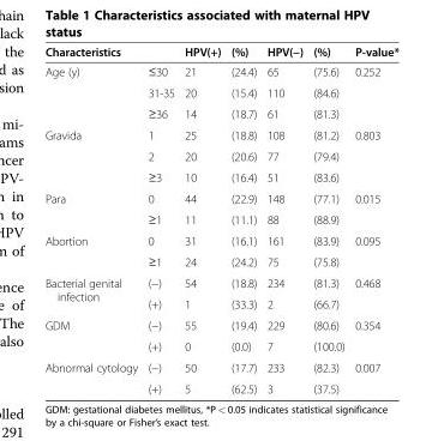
<table><thead><tr><td>Characteristics</td><td></td><td>HPV(+)</td><td>(%)</td><td>HPV(−)</td><td>(%)</td><td>P-value*</td></tr></thead><tbody><tr><td rowspan="3">Age (y)</td><td>≤30</td><td>21</td><td>(24.4)</td><td>65</td><td>(75.6)</td><td>0.252</td></tr><tr><td>31-35</td><td>20</td><td>(15.4)</td><td>110</td><td>(84.6)</td><td></td></tr><tr><td>≥36</td><td>14</td><td>(18.7)</td><td>61</td><td>(81.3)</td><td></td></tr><tr><td rowspan="3">Gravida</td><td>1</td><td>25</td><td>(18.8)</td><td>108</td><td>(81.2)</td><td>0.803</td></tr><tr><td>2</td><td>20</td><td>(20.6)</td><td>77</td><td>(79.4)</td><td></td></tr><tr><td>≥3</td><td>10</td><td>(16.4)</td><td>51</td><td>(83.6)</td><td></td></tr><tr><td rowspan="2">Para</td><td>0</td><td>44</td><td>(22.9)</td><td>148</td><td>(77.1)</td><td>0.015</td></tr><tr><td>≥1</td><td>11</td><td>(11.1)</td><td>88</td><td>(88.9)</td><td></td></tr><tr><td rowspan="2">Abortion</td><td>0</td><td>31</td><td>(16.1)</td><td>161</td><td>(83.9)</td><td>0.095</td></tr><tr><td>≥1</td><td>24</td><td>(24.2)</td><td>75</td><td>(75.8)</td><td></td></tr><tr><td rowspan="2">Bacterial genital infection</td><td>(−)</td><td>54</td><td>(18.8)</td><td>234</td><td>(81.3)</td><td>0.468</td></tr><tr><td>(+)</td><td>1</td><td>(33.3)</td><td>2</td><td>(66.7)</td><td></td></tr><tr><td rowspan="2">GDM</td><td>(−)</td><td>55</td><td>(19.4)</td><td>229</td><td>(80.6)</td><td>0.354</td></tr><tr><td>(+)</td><td>0</td><td>(0.0)</td><td>7</td><td>(100.0)</td><td></td></tr><tr><td rowspan="2">Abnormal cytology</td><td>(−)</td><td>50</td><td>(17.7)</td><td>233</td><td>(82.3)</td><td>0.007</td></tr><tr><td>(+)</td><td>5</td><td>(62.5)</td><td>3</td><td>(37.5)</td><td></td></tr></tbody></table>